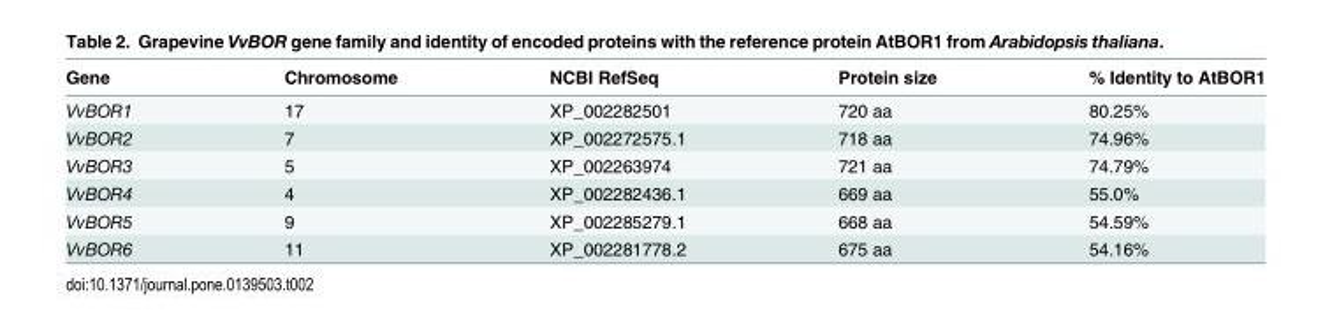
<table><thead><tr><td>Gene</td><td>Chromosome</td><td>NCBI RefSeq</td><td>Protein size</td><td>% Identity to AtBOR1</td></tr></thead><tbody><tr><td>VvBOR1</td><td>17</td><td>XP_002282501</td><td>720 aa</td><td>80.25%</td></tr><tr><td>VvBOR2</td><td>7</td><td>XP_002272575.1</td><td>718 aa</td><td>74.96%</td></tr><tr><td>VvBOR3</td><td>5</td><td>XP_002263974</td><td>721 aa</td><td>74.79%</td></tr><tr><td>VvBOR4</td><td>4</td><td>XP_002282436.1</td><td>669 aa</td><td>55.0%</td></tr><tr><td>VvBOR5</td><td>9</td><td>XP_002285279.1</td><td>668 aa</td><td>54.59%</td></tr><tr><td>VvBOR6</td><td>11</td><td>XP_002281778.2</td><td>675 aa</td><td>54.16%</td></tr></tbody></table>